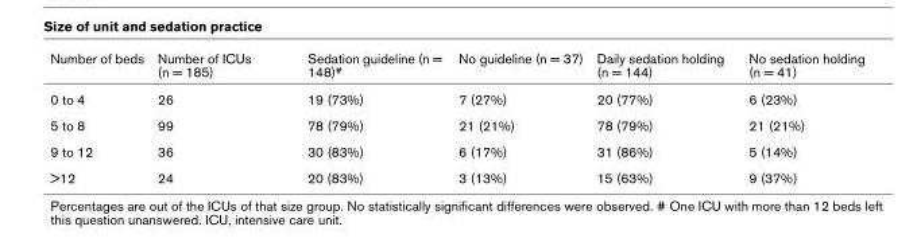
<table><thead><tr><td>Number of beds</td><td>Number of ICUs (n = 185)</td><td>Sedation guideline (n = 148)<sup>#</sup></td><td>No guideline (n = 37)</td><td>Daily sedation holding (n = 144)</td><td>No sedation holding (n = 41)</td></tr></thead><tbody><tr><td>0 to 4</td><td>26</td><td>19 (73%)</td><td>7 (27%)</td><td>20 (77%)</td><td>6 (23%)</td></tr><tr><td>5 to 8</td><td>99</td><td>78 (79%)</td><td>21 (21%)</td><td>78 (79%)</td><td>21 (21%)</td></tr><tr><td>9 to 12</td><td>36</td><td>30 (83%)</td><td>6 (17%)</td><td>31 (86%)</td><td>5 (14%)</td></tr><tr><td>&gt;12</td><td>24</td><td>20 (83%)</td><td>3 (13%)</td><td>15 (63%)</td><td>9 (37%)</td></tr></tbody></table>